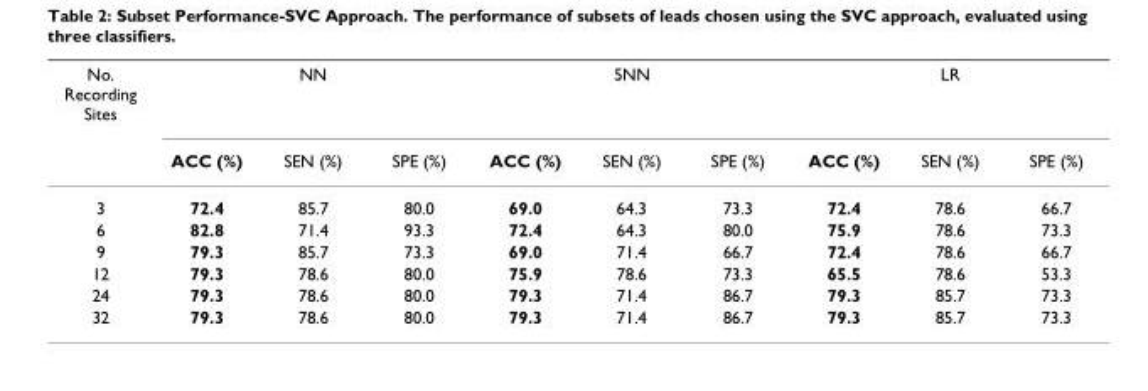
<table><thead><tr><td rowspan="2">No. Recording Sites</td><td colspan="3">NN</td><td colspan="3">5NN</td><td colspan="3">LR</td></tr><tr><td>ACC (%)</td><td>SEN (%)</td><td>SPE (%)</td><td>ACC (%)</td><td>SEN (%)</td><td>SPE (%)</td><td>ACC (%)</td><td>SEN (%)</td><td>SPE (%)</td></tr></thead><tbody><tr><td>3</td><td>72.4</td><td>85.7</td><td>80.0</td><td>69.0</td><td>64.3</td><td>73.3</td><td>72.4</td><td>78.6</td><td>66.7</td></tr><tr><td>6</td><td>82.8</td><td>71.4</td><td>93.3</td><td>72.4</td><td>64.3</td><td>80.0</td><td>75.9</td><td>78.6</td><td>73.3</td></tr><tr><td>9</td><td>79.3</td><td>85.7</td><td>73.3</td><td>69.0</td><td>71.4</td><td>66.7</td><td>72.4</td><td>78.6</td><td>66.7</td></tr><tr><td>12</td><td>79.3</td><td>78.6</td><td>80.0</td><td>75.9</td><td>78.6</td><td>73.3</td><td>65.5</td><td>78.6</td><td>53.3</td></tr><tr><td>24</td><td>79.3</td><td>78.6</td><td>80.0</td><td>79.3</td><td>71.4</td><td>86.7</td><td>79.3</td><td>85.7</td><td>73.3</td></tr><tr><td>32</td><td>79.3</td><td>78.6</td><td>80.0</td><td>79.3</td><td>71.4</td><td>86.7</td><td>79.3</td><td>85.7</td><td>73.3</td></tr></tbody></table>